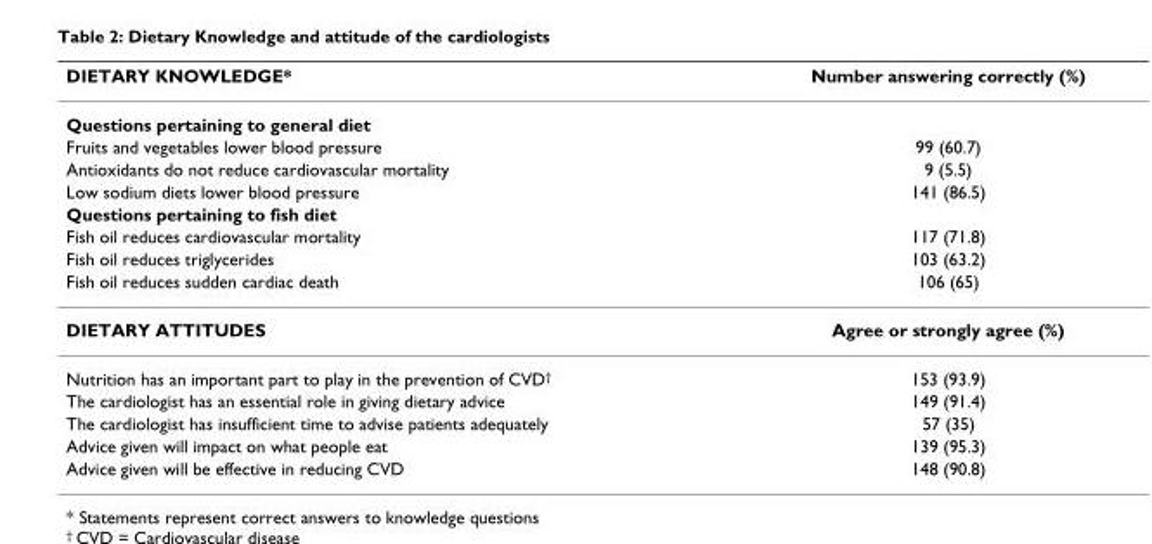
<table><thead><tr><td>DIETARY KNOWLEDGE*</td><td>Number answering correctly (%)</td></tr></thead><tbody><tr><td colspan="2">Questions pertaining to general diet</td></tr><tr><td>Fruits and vegetables lower blood pressure</td><td>99 (60.7)</td></tr><tr><td>Antioxidants do not reduce cardiovascular mortality</td><td>9 (5.5)</td></tr><tr><td>Low sodium diets lower blood pressure</td><td>141 (86.5)</td></tr><tr><td colspan="2">Questions pertaining to fish diet</td></tr><tr><td>Fish oil reduces cardiovascular mortality</td><td>117 (71.8)</td></tr><tr><td>Fish oil reduces triglycerides</td><td>103 (63.2)</td></tr><tr><td>Fish oil reduces sudden cardiac death</td><td>106 (65)</td></tr><tr><td>DIETARY ATTITUDES</td><td>Agree or strongly agree (%)</td></tr><tr><td>Nutrition has an important part to play in the prevention of CVD<sup>†</sup></td><td>153 (93.9)</td></tr><tr><td>The cardiologist has an essential role in giving dietary advice</td><td>149 (91.4)</td></tr><tr><td>The cardiologist has insufficient time to advise patients adequately</td><td>57 (35)</td></tr><tr><td>Advice given will impact on what people eat</td><td>139 (95.3)</td></tr><tr><td>Advice given will be effective in reducing CVD</td><td>148 (90.8)</td></tr></tbody></table>